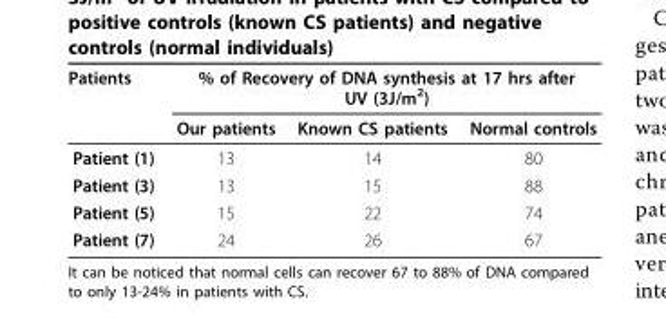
<table><thead><tr><td rowspan="2">Patients</td><td colspan="3">% of Recovery of DNA synthesis at 17 hrs after UV (3J/m<sup>2</sup>)</td></tr><tr><td>Our patients</td><td>Known CS patients</td><td>Normal controls</td></tr></thead><tbody><tr><td>Patient (1)</td><td>13</td><td>14</td><td>80</td></tr><tr><td>Patient (3)</td><td>13</td><td>15</td><td>88</td></tr><tr><td>Patient (5)</td><td>15</td><td>22</td><td>74</td></tr><tr><td>Patient (7)</td><td>24</td><td>26</td><td>67</td></tr></tbody></table>